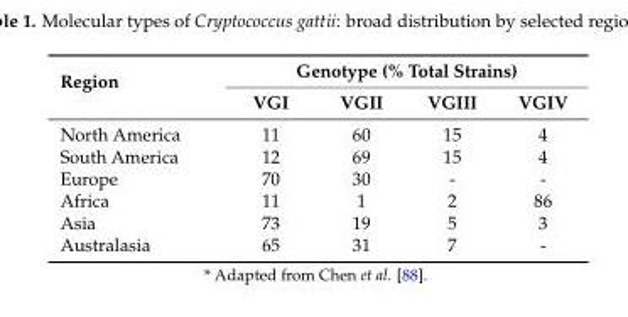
<table><thead><tr><td rowspan="2">Region</td><td colspan="4">Genotype (% Total Strains)</td></tr><tr><td>VGI</td><td>VGII</td><td>VGIII</td><td>VGIV</td></tr></thead><tbody><tr><td>North America</td><td>11</td><td>60</td><td>15</td><td>4</td></tr><tr><td>South America</td><td>12</td><td>69</td><td>15</td><td>4</td></tr><tr><td>Europe</td><td>70</td><td>30</td><td>-</td><td>-</td></tr><tr><td>Africa</td><td>11</td><td>1</td><td>2</td><td>86</td></tr><tr><td>Asia</td><td>73</td><td>19</td><td>5</td><td>3</td></tr><tr><td>Australasia</td><td>65</td><td>31</td><td>7</td><td>-</td></tr></tbody></table>